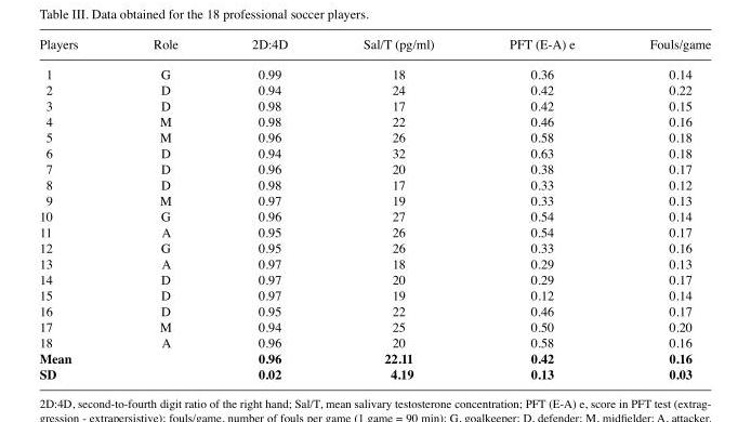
<table><thead><tr><td>Players</td><td>Role</td><td>2D:4D</td><td>Sal/T (pg/ml)</td><td>PFT (E-A) e</td><td>Fouls/game</td></tr></thead><tbody><tr><td>1</td><td>G</td><td>0.99</td><td>18</td><td>0.36</td><td>0.14</td></tr><tr><td>2</td><td>D</td><td>0.94</td><td>24</td><td>0.42</td><td>0.22</td></tr><tr><td>3</td><td>D</td><td>0.98</td><td>17</td><td>0.42</td><td>0.15</td></tr><tr><td>4</td><td>M</td><td>0.98</td><td>22</td><td>0.46</td><td>0.16</td></tr><tr><td>5</td><td>M</td><td>0.96</td><td>26</td><td>0.58</td><td>0.18</td></tr><tr><td>6</td><td>D</td><td>0.94</td><td>32</td><td>0.63</td><td>0.18</td></tr><tr><td>7</td><td>D</td><td>0.96</td><td>20</td><td>0.38</td><td>0.17</td></tr><tr><td>8</td><td>D</td><td>0.98</td><td>17</td><td>0.33</td><td>0.12</td></tr><tr><td>9</td><td>M</td><td>0.97</td><td>19</td><td>0.33</td><td>0.13</td></tr><tr><td>10</td><td>G</td><td>0.96</td><td>27</td><td>0.54</td><td>0.14</td></tr><tr><td>11</td><td>A</td><td>0.95</td><td>26</td><td>0.54</td><td>0.17</td></tr><tr><td>12</td><td>G</td><td>0.95</td><td>26</td><td>0.33</td><td>0.16</td></tr><tr><td>13</td><td>A</td><td>0.97</td><td>18</td><td>0.29</td><td>0.13</td></tr><tr><td>14</td><td>D</td><td>0.97</td><td>20</td><td>0.29</td><td>0.17</td></tr><tr><td>15</td><td>D</td><td>0.97</td><td>19</td><td>0.12</td><td>0.14</td></tr><tr><td>16</td><td>D</td><td>0.95</td><td>22</td><td>0.46</td><td>0.17</td></tr><tr><td>17</td><td>M</td><td>0.94</td><td>25</td><td>0.50</td><td>0.20</td></tr><tr><td>18</td><td>A</td><td>0.96</td><td>20</td><td>0.58</td><td>0.16</td></tr><tr><td>Mean</td><td></td><td>0.96</td><td>22.11</td><td>0.42</td><td>0.16</td></tr><tr><td>SD</td><td></td><td>0.02</td><td>4.19</td><td>0.13</td><td>0.03</td></tr></tbody></table>